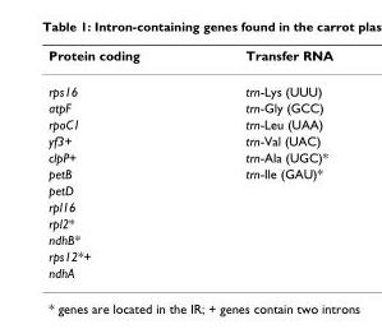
<table><thead><tr><td>Protein coding</td><td>Transfer RNA</td></tr></thead><tbody><tr><td>rps16</td><td>trn-Lys (UUU)</td></tr><tr><td>atpF</td><td>trn-Gly (GCC)</td></tr><tr><td>rpoC1</td><td>trn-Leu (UAA)</td></tr><tr><td>yf3+</td><td>trn-Val (UAC)</td></tr><tr><td>clpP+</td><td>trn-Ala (UGC)*</td></tr><tr><td>petB</td><td>trn-Ile (GAU)*</td></tr><tr><td colspan="2">petD</td></tr><tr><td colspan="2">rpl16</td></tr><tr><td colspan="2">rpl2*</td></tr><tr><td colspan="2">ndhB*</td></tr><tr><td colspan="2">rps12*+</td></tr><tr><td>ndhA</td><td></td></tr></tbody></table>